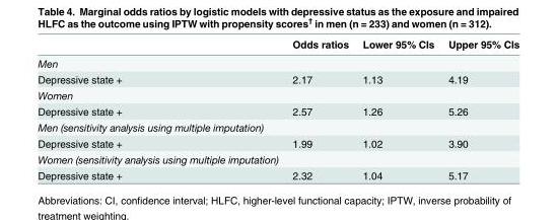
<table><thead><tr><td></td><td>Odds ratios</td><td>Lower 95% CIs</td><td>Upper 95% CIs</td></tr></thead><tbody><tr><td colspan="4">Men</td></tr><tr><td>Depressive state +</td><td>2.17</td><td>1.13</td><td>4.19</td></tr><tr><td colspan="4">Women</td></tr><tr><td>Depressive state +</td><td>2.57</td><td>1.26</td><td>5.26</td></tr><tr><td colspan="4">Men (sensitivity analysis using multiple imputation)</td></tr><tr><td>Depressive state +</td><td>1.99</td><td>1.02</td><td>3.90</td></tr><tr><td colspan="4">Women (sensitivity analysis using multiple imputation)</td></tr><tr><td>Depressive state +</td><td>2.32</td><td>1.04</td><td>5.17</td></tr></tbody></table>